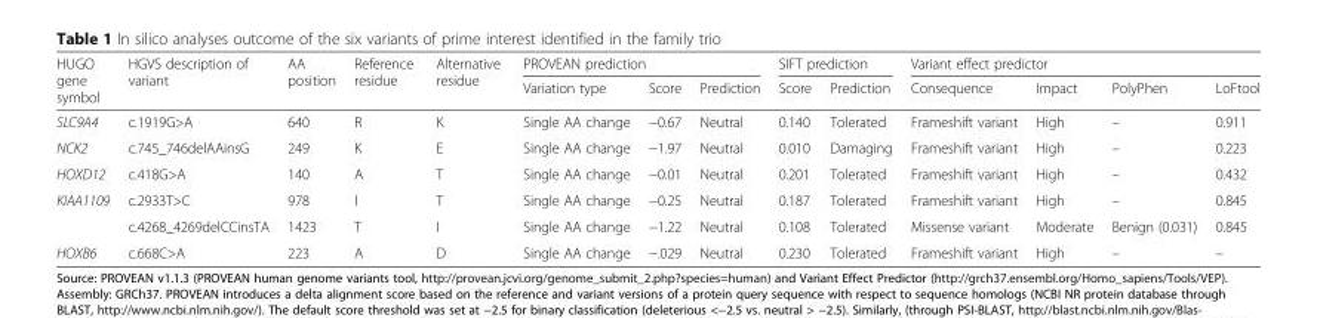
<table><thead><tr><td rowspan="2">HUGO gene symbol</td><td rowspan="2">HGVS description of variant</td><td rowspan="2">AA position</td><td rowspan="2">Reference residue</td><td rowspan="2">Alternative residue</td><td colspan="3">PROVEAN prediction</td><td colspan="2">SIFT prediction</td><td colspan="4">Variant effect predictor</td></tr><tr><td>Variation type</td><td>Score</td><td>Prediction</td><td>Score</td><td>Prediction</td><td>Consequence</td><td>Impact</td><td>PolyPhen</td><td>LoFtool</td></tr></thead><tbody><tr><td>SLC9A4</td><td>c.1919G&gt;A</td><td>640</td><td>R</td><td>K</td><td>Single AA change</td><td>−0.67</td><td>Neutral</td><td>0.140</td><td>Tolerated</td><td>Frameshift variant</td><td>High</td><td>–</td><td>0.911</td></tr><tr><td>NCK2</td><td>c.745_746delAAinsG</td><td>249</td><td>K</td><td>E</td><td>Single AA change</td><td>−1.97</td><td>Neutral</td><td>0.010</td><td>Damaging</td><td>Frameshift variant</td><td>High</td><td>–</td><td>0.223</td></tr><tr><td>HOXD12</td><td>c.418G&gt;A</td><td>140</td><td>A</td><td>T</td><td>Single AA change</td><td>−0.01</td><td>Neutral</td><td>0.201</td><td>Tolerated</td><td>Frameshift variant</td><td>High</td><td>–</td><td>0.432</td></tr><tr><td rowspan="2">KIAA1109</td><td>c.2933T&gt;C</td><td>978</td><td>I</td><td>T</td><td>Single AA change</td><td>−0.25</td><td>Neutral</td><td>0.187</td><td>Tolerated</td><td>Frameshift variant</td><td>High</td><td>–</td><td>0.845</td></tr><tr><td>c.4268_4269delCCinsTA</td><td>1423</td><td>T</td><td>I</td><td>Single AA change</td><td>−1.22</td><td>Neutral</td><td>0.108</td><td>Tolerated</td><td>Missense variant</td><td>Moderate</td><td>Benign (0.031)</td><td>0.845</td></tr><tr><td>HOXB6</td><td>c.668C&gt;A</td><td>223</td><td>A</td><td>D</td><td>Single AA change</td><td>−.029</td><td>Neutral</td><td>0.230</td><td>Tolerated</td><td>Frameshift variant</td><td>High</td><td>–</td><td>–</td></tr></tbody></table>